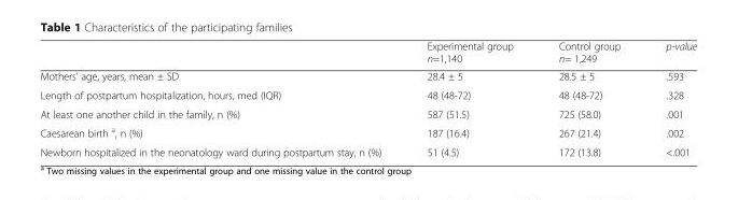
<table><thead><tr><td></td><td>Experimental group n=1,140</td><td>Control group n= 1,249</td><td>p-value</td></tr></thead><tbody><tr><td>Mothers’ age, years, mean ± SD</td><td>28.4 ± 5</td><td>28.5 ± 5</td><td>.593</td></tr><tr><td>Length of postpartum hospitalization, hours, med (IQR)</td><td>48 (48-72)</td><td>48 (48-72)</td><td>.328</td></tr><tr><td>At least one another child in the family, n (%)</td><td>587 (51.5)</td><td>725 (58.0)</td><td>.001</td></tr><tr><td>Caesarean birth <sup>a</sup>, n (%)</td><td>187 (16.4)</td><td>267 (21.4)</td><td>.002</td></tr><tr><td>Newborn hospitalized in the neonatology ward during postpartum stay, n (%)</td><td>51 (4.5)</td><td>172 (13.8)</td><td>&lt;.001</td></tr></tbody></table>